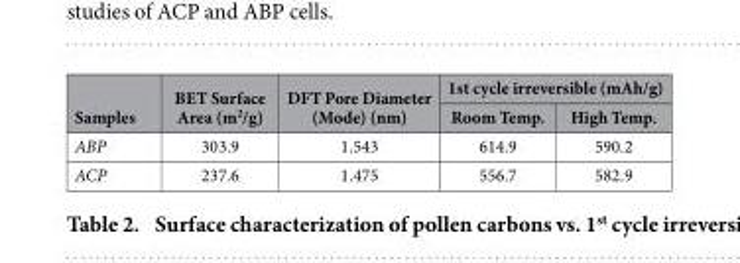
<table><thead><tr><td rowspan="2">Samples</td><td rowspan="2">BET Surface Area (m<sup>2</sup>/g)</td><td rowspan="2">DFT Pore Diameter (Mode) (nm)</td><td colspan="2">1st cycle irreversible (mAh/g)</td></tr><tr><td>Room Temp.</td><td>High Temp.</td></tr></thead><tbody><tr><td>ABP</td><td>303.9</td><td>1.543</td><td>614.9</td><td>590.2</td></tr><tr><td>ACP</td><td>237.6</td><td>1.475</td><td>556.7</td><td>582.9</td></tr></tbody></table>